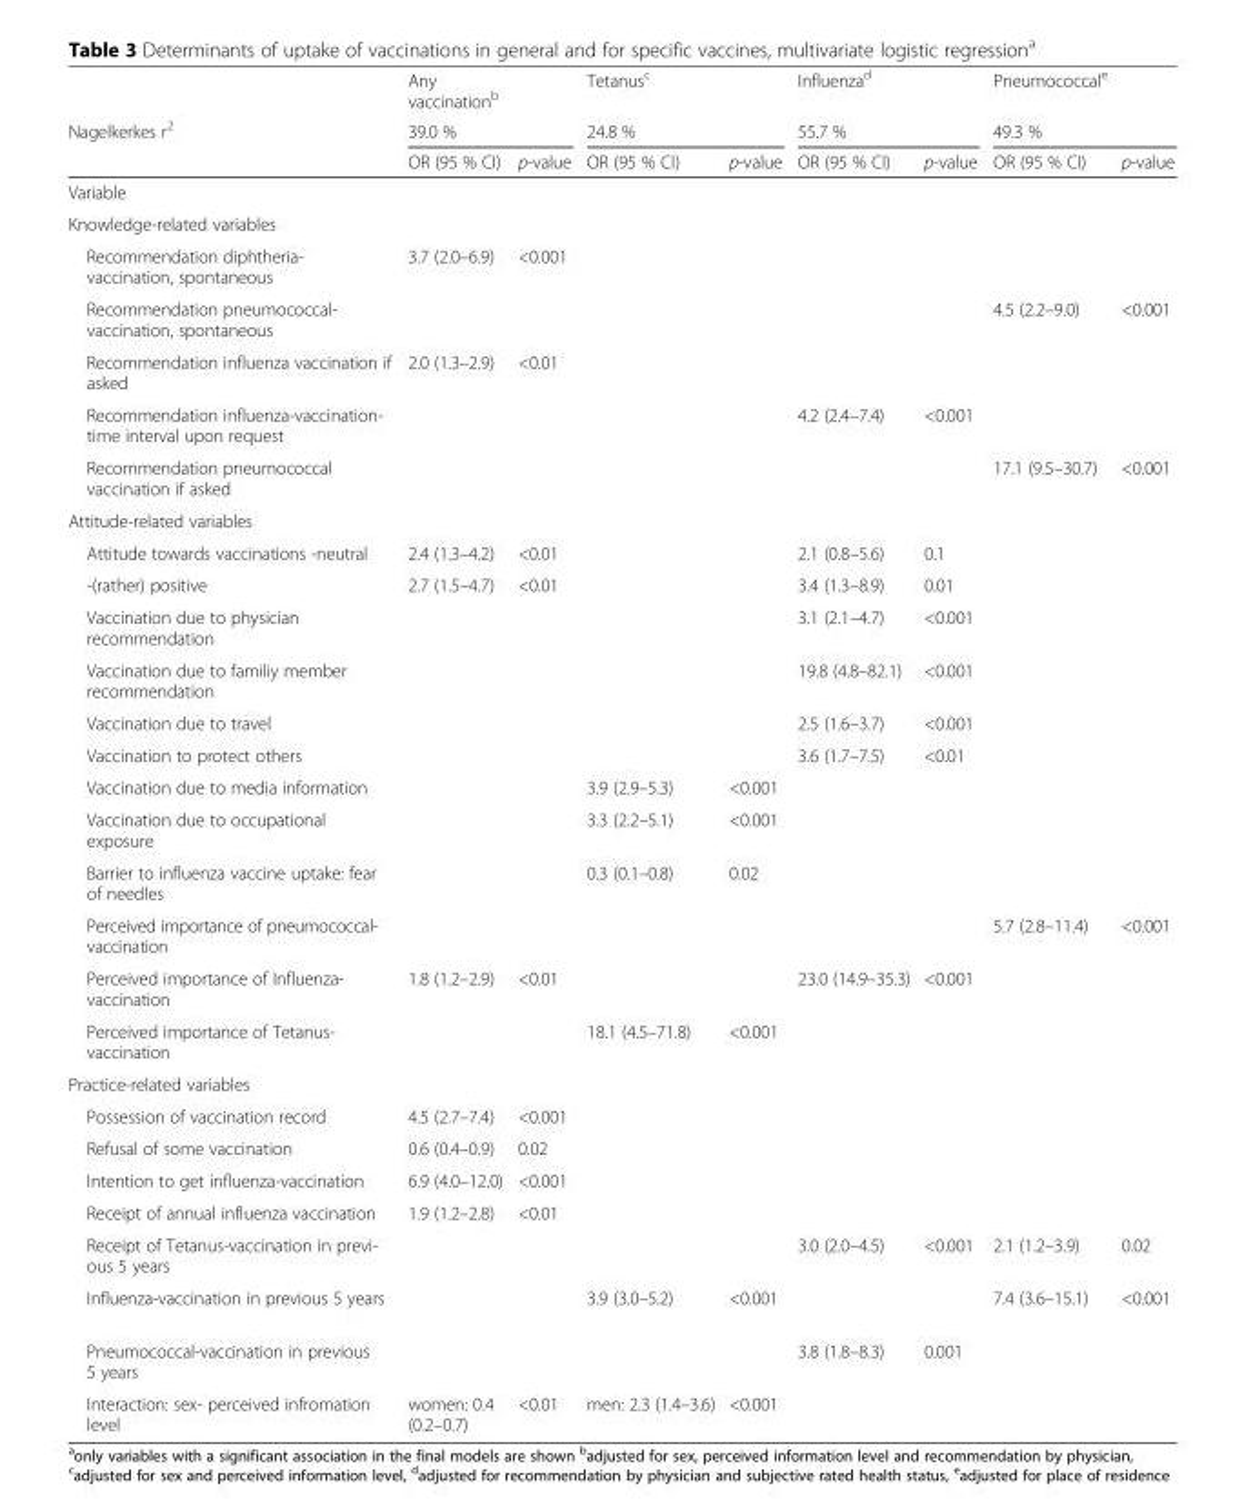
<table><thead><tr><td rowspan="3">Nagelkerkes r<sup>2</sup></td><td>Any vaccination<sup>b</sup></td><td></td><td>Tetanus<sup>c</sup></td><td></td><td>Influenza<sup>d</sup></td><td></td><td>Pneumococcal<sup>e</sup></td><td></td></tr><tr><td colspan="2">39.0 %</td><td colspan="2">24.8 %</td><td colspan="2">55.7 %</td><td colspan="2">49.3 %</td></tr><tr><td>OR (95 % CI)</td><td>p-value</td><td>OR (95 % CI)</td><td>p-value</td><td>OR (95 % CI)</td><td>p-value</td><td>OR (95 % CI)</td><td>p-value</td></tr></thead><tbody><tr><td colspan="9">Variable</td></tr><tr><td colspan="9">Knowledge-related variables</td></tr><tr><td>Recommendation diphtheria- vaccination, spontaneous</td><td>3.7 (2.0–6.9)</td><td>&lt;0.001</td><td></td><td></td><td></td><td></td><td></td><td></td></tr><tr><td>Recommendation pneumococcal- vaccination, spontaneous</td><td></td><td></td><td></td><td></td><td></td><td></td><td>4.5 (2.2–9.0)</td><td>&lt;0.001</td></tr><tr><td>Recommendation influenza vaccination if asked</td><td>2.0 (1.3–2.9)</td><td>&lt;0.01</td><td></td><td></td><td></td><td></td><td></td><td></td></tr><tr><td>Recommendation influenza-vaccination- time interval upon request</td><td></td><td></td><td></td><td></td><td>4.2 (2.4–7.4)</td><td>&lt;0.001</td><td></td><td></td></tr><tr><td>Recommendation pneumococcal vaccination if asked</td><td></td><td></td><td></td><td></td><td></td><td></td><td>17.1 (9.5–30.7)</td><td>&lt;0.001</td></tr><tr><td colspan="9">Attitude-related variables</td></tr><tr><td>Attitude towards vaccinations -neutral</td><td>2.4 (1.3–4.2)</td><td>&lt;0.01</td><td></td><td></td><td>2.1 (0.8–5.6)</td><td>0.1</td><td></td><td></td></tr><tr><td>-(rather) positive</td><td>2.7 (1.5–4.7)</td><td>&lt;0.01</td><td></td><td></td><td>3.4 (1.3–8.9)</td><td>0.01</td><td></td><td></td></tr><tr><td>Vaccination due to physician recommendation</td><td></td><td></td><td></td><td></td><td>3.1 (2.1–4.7)</td><td>&lt;0.001</td><td></td><td></td></tr><tr><td>Vaccination due to familiy member recommendation</td><td></td><td></td><td></td><td></td><td>19.8 (4.8–82.1)</td><td>&lt;0.001</td><td></td><td></td></tr><tr><td>Vaccination due to travel</td><td></td><td></td><td></td><td></td><td>2.5 (1.6–3.7)</td><td>&lt;0.001</td><td></td><td></td></tr><tr><td>Vaccination to protect others</td><td></td><td></td><td></td><td></td><td>3.6 (1.7–7.5)</td><td>&lt;0.01</td><td></td><td></td></tr><tr><td>Vaccination due to media information</td><td></td><td></td><td>3.9 (2.9–5.3)</td><td>&lt;0.001</td><td></td><td></td><td></td><td></td></tr><tr><td>Vaccination due to occupational exposure</td><td></td><td></td><td>3.3 (2.2–5.1)</td><td>&lt;0.001</td><td></td><td></td><td></td><td></td></tr><tr><td>Barrier to influenza vaccine uptake: fear of needles</td><td></td><td></td><td>0.3 (0.1–0.8)</td><td>0.02</td><td></td><td></td><td></td><td></td></tr><tr><td>Perceived importance of pneumococcal- vaccination</td><td></td><td></td><td></td><td></td><td></td><td></td><td>5.7 (2.8–11.4)</td><td>&lt;0.001</td></tr><tr><td>Perceived importance of Influenza- vaccination</td><td>1.8 (1.2–2.9)</td><td>&lt;0.01</td><td></td><td></td><td>23.0 (14.9–35.3)</td><td>&lt;0.001</td><td></td><td></td></tr><tr><td>Perceived importance of Tetanus- vaccination</td><td></td><td></td><td>18.1 (4.5–71.8)</td><td>&lt;0.001</td><td></td><td></td><td></td><td></td></tr><tr><td colspan="9">Practice-related variables</td></tr><tr><td>Possession of vaccination record</td><td>4.5 (2.7–7.4)</td><td>&lt;0.001</td><td></td><td></td><td></td><td></td><td></td><td></td></tr><tr><td>Refusal of some vaccination</td><td>0.6 (0.4–0.9)</td><td>0.02</td><td></td><td></td><td></td><td></td><td></td><td></td></tr><tr><td>Intention to get influenza-vaccination</td><td>6.9 (4.0–12.0)</td><td>&lt;0.001</td><td></td><td></td><td></td><td></td><td></td><td></td></tr><tr><td>Receipt of annual influenza vaccination</td><td>1.9 (1.2–2.8)</td><td>&lt;0.01</td><td></td><td></td><td></td><td></td><td></td><td></td></tr><tr><td>Receipt of Tetanus-vaccination in previ- ous 5 years</td><td></td><td></td><td></td><td></td><td>3.0 (2.0–4.5)</td><td>&lt;0.001</td><td>2.1 (1.2–3.9)</td><td>0.02</td></tr><tr><td>Influenza-vaccination in previous 5 years</td><td></td><td></td><td>3.9 (3.0–5.2)</td><td>&lt;0.001</td><td></td><td></td><td>7.4 (3.6–15.1)</td><td>&lt;0.001</td></tr><tr><td>Pneumococcal-vaccination in previous 5 years</td><td></td><td></td><td></td><td></td><td>3.8 (1.8–8.3)</td><td>0.001</td><td></td><td></td></tr><tr><td>Interaction: sex- perceived infromation level</td><td>women: 0.4 (0.2–0.7)</td><td>&lt;0.01</td><td>men: 2.3 (1.4–3.6)</td><td>&lt;0.001</td><td></td><td></td><td></td><td></td></tr></tbody></table>